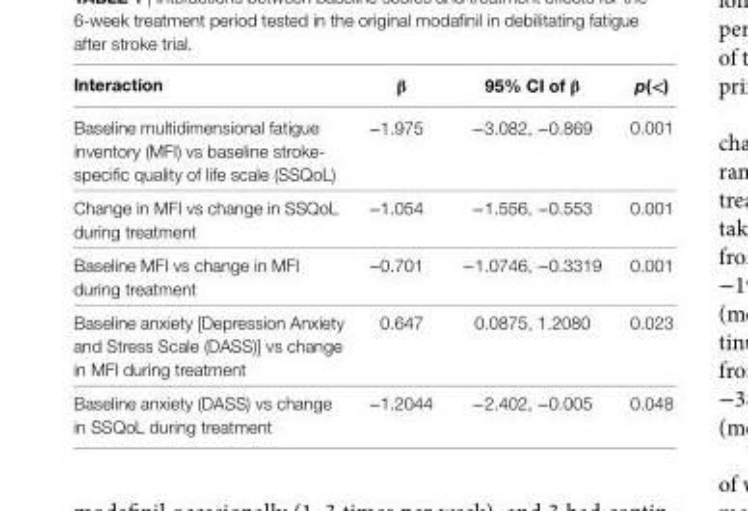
<table><thead><tr><td>interaction</td><td>β</td><td>95% ci of β</td><td>p(&lt;)</td></tr></thead><tbody><tr><td>Baseline multidimensional fatigue inventory (MFI) vs baseline stroke- specific quality of life scale (SSQoL)</td><td>−1.975</td><td>−3.082, −0.869</td><td>0.001</td></tr><tr><td>Change in MFI vs change in SSQoL during treatment</td><td>−1.054</td><td>−1.556, −0.553</td><td>0.001</td></tr><tr><td>Baseline MFI vs change in MFI during treatment</td><td>−0.701</td><td>−1.0746, −0.3319</td><td>0.001</td></tr><tr><td>Baseline anxiety [Depression Anxiety and Stress Scale (DASS)] vs change in MFI during treatment</td><td>0.647</td><td>0.0875, 1.2080</td><td>0.023</td></tr><tr><td>Baseline anxiety (DASS) vs change in SSQoL during treatment</td><td>−1.2044</td><td>−2.402, −0.005</td><td>0.048</td></tr></tbody></table>